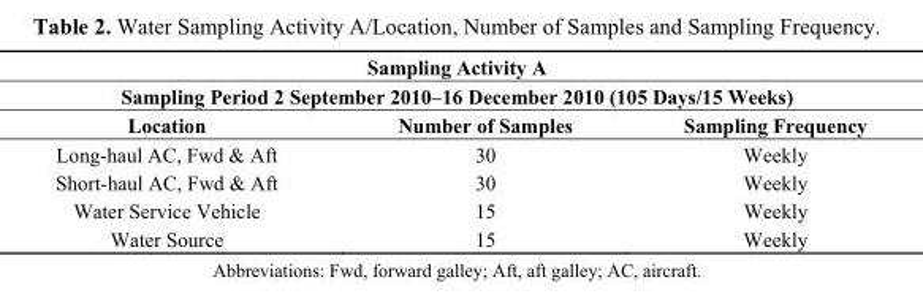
<table><thead><tr><td rowspan="2" colspan="3">Sampling Activity A Sampling Period 2 September 2010–16 December 2010 (105 Days/15 Weeks)</td></tr><tr></tr><tr><td>Location</td><td>Number of Samples</td><td>Sampling Frequency</td></tr></thead><tbody><tr><td>Long-haul AC, Fwd &amp; Aft</td><td>30</td><td>Weekly</td></tr><tr><td>Short-haul AC, Fwd &amp; Aft</td><td>30</td><td>Weekly</td></tr><tr><td>Water Service Vehicle</td><td>15</td><td>Weekly</td></tr><tr><td>Water Source</td><td>15</td><td>Weekly</td></tr></tbody></table>